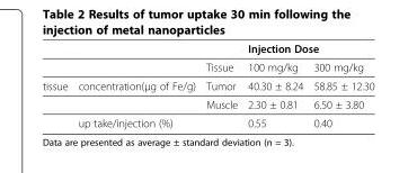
<table><thead><tr><td rowspan="2"></td><td rowspan="2"></td><td rowspan="2">Tissue</td><td colspan="2">Injection Dose</td></tr><tr><td>100 mg/kg</td><td>300 mg/kg</td></tr></thead><tbody><tr><td rowspan="3">tissue</td><td>concentration(μg of Fe/g)</td><td>Tumor</td><td>40.30 ± 8.24</td><td>58.85 ± 12.30</td></tr><tr><td></td><td>Muscle</td><td>2.30 ± 0.81</td><td>6.50 ± 3.80</td></tr><tr><td>up take/injection (%)</td><td></td><td>0.55</td><td>0.40</td></tr></tbody></table>